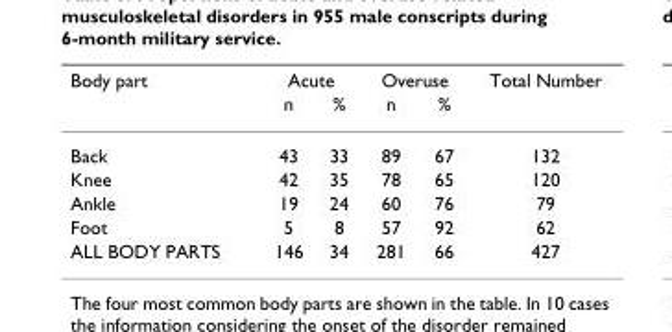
<table><thead><tr><td rowspan="2">Body part</td><td colspan="2">Acute</td><td colspan="2">Overuse</td><td rowspan="2">Total Number</td></tr><tr><td>n</td><td>%</td><td>n</td><td>%</td></tr></thead><tbody><tr><td>Back</td><td>43</td><td>33</td><td>89</td><td>67</td><td>132</td></tr><tr><td>Knee</td><td>42</td><td>35</td><td>78</td><td>65</td><td>120</td></tr><tr><td>Ankle</td><td>19</td><td>24</td><td>60</td><td>76</td><td>79</td></tr><tr><td>Foot</td><td>5</td><td>8</td><td>57</td><td>92</td><td>62</td></tr><tr><td>ALL BODY PARTS</td><td>146</td><td>34</td><td>281</td><td>66</td><td>427</td></tr></tbody></table>